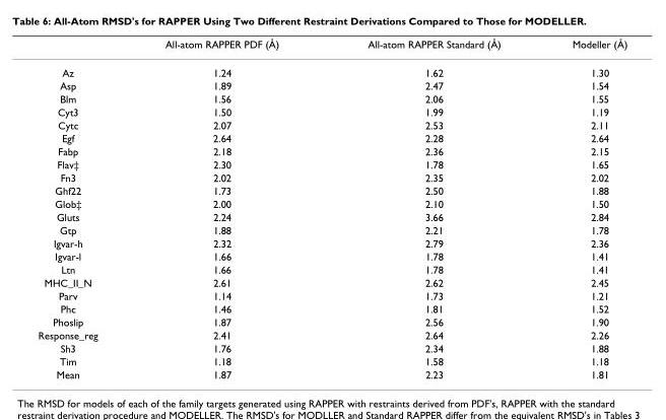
<table><thead><tr><td></td><td>All-atom RAPPER PDF (Å)</td><td>All-atom RAPPER Standard (Å)</td><td>Modeller (Å)</td></tr></thead><tbody><tr><td>Az</td><td>1.24</td><td>1.62</td><td>1.30</td></tr><tr><td>Asp</td><td>1.89</td><td>2.47</td><td>1.54</td></tr><tr><td>Blm</td><td>1.56</td><td>2.06</td><td>1.55</td></tr><tr><td>Cyt3</td><td>1.50</td><td>1.99</td><td>1.19</td></tr><tr><td>Cytc</td><td>2.07</td><td>2.53</td><td>2.11</td></tr><tr><td>Egf</td><td>2.64</td><td>2.28</td><td>2.64</td></tr><tr><td>Fabp</td><td>2.18</td><td>2.36</td><td>2.15</td></tr><tr><td>Flav‡</td><td>2.30</td><td>1.78</td><td>1.65</td></tr><tr><td>Fn3</td><td>2.02</td><td>2.35</td><td>2.02</td></tr><tr><td>Ghf22</td><td>1.73</td><td>2.50</td><td>1.88</td></tr><tr><td>Glob‡</td><td>2.00</td><td>2.10</td><td>1.50</td></tr><tr><td>Gluts</td><td>2.24</td><td>3.66</td><td>2.84</td></tr><tr><td>Gtp</td><td>1.88</td><td>2.21</td><td>1.78</td></tr><tr><td>Igvar-h</td><td>2.32</td><td>2.79</td><td>2.36</td></tr><tr><td>Igvar-l</td><td>1.66</td><td>1.78</td><td>1.41</td></tr><tr><td>Ltn</td><td>1.66</td><td>1.78</td><td>1.41</td></tr><tr><td>MHC_II_N</td><td>2.61</td><td>2.62</td><td>2.45</td></tr><tr><td>Parv</td><td>1.14</td><td>1.73</td><td>1.21</td></tr><tr><td>Phc</td><td>1.46</td><td>1.81</td><td>1.52</td></tr><tr><td>Phoslip</td><td>1.87</td><td>2.56</td><td>1.90</td></tr><tr><td>Response_reg</td><td>2.41</td><td>2.64</td><td>2.26</td></tr><tr><td>Sh3</td><td>1.76</td><td>2.34</td><td>1.88</td></tr><tr><td>Tim</td><td>1.18</td><td>1.58</td><td>1.18</td></tr><tr><td>Mean</td><td>1.87</td><td>2.23</td><td>1.81</td></tr></tbody></table>